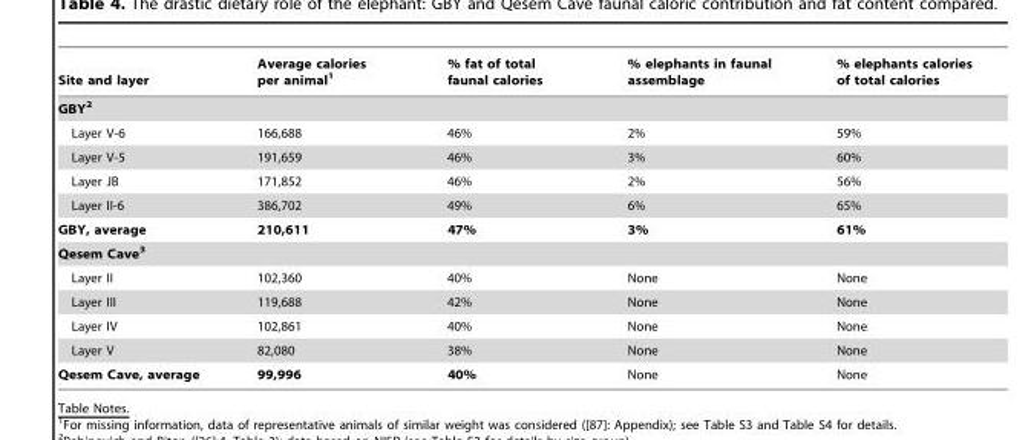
<table><thead><tr><td>Site and layer</td><td>Average calories per animal<sup>1</sup></td><td>% fat of total faunal calories</td><td>% elephants in faunal assemblage</td><td>% elephants calories of total calories</td></tr></thead><tbody><tr><td colspan="5">GBY2</td></tr><tr><td>Layer V-6</td><td>166,688</td><td>46%</td><td>2%</td><td>59%</td></tr><tr><td>Layer V-5</td><td>191,659</td><td>46%</td><td>3%</td><td>60%</td></tr><tr><td>Layer JB</td><td>171,852</td><td>46%</td><td>2%</td><td>56%</td></tr><tr><td>Layer II-6</td><td>386,702</td><td>49%</td><td>6%</td><td>65%</td></tr><tr><td>GBY, average</td><td>210,611</td><td>47%</td><td>3%</td><td>61%</td></tr><tr><td colspan="5">Qesem Cave3</td></tr><tr><td>Layer II</td><td>102,360</td><td>40%</td><td>None</td><td>None</td></tr><tr><td>Layer III</td><td>119,688</td><td>42%</td><td>None</td><td>None</td></tr><tr><td>Layer IV</td><td>102,861</td><td>40%</td><td>None</td><td>None</td></tr><tr><td>Layer V</td><td>82,080</td><td>38%</td><td>None</td><td>None</td></tr><tr><td>Qesem Cave, average</td><td>99,996</td><td>40%</td><td>None</td><td>None</td></tr></tbody></table>